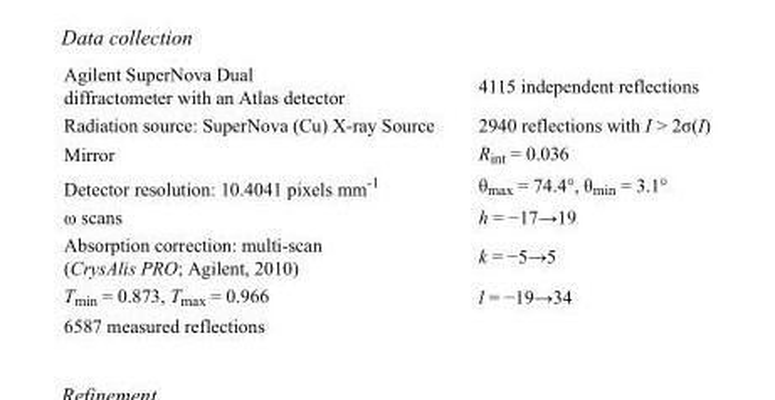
<table><tbody><tr><td>Agilent SuperNova Dual diffractometer with an Atlas detector</td><td>4115 independent reflections</td></tr><tr><td>Radiation source: SuperNova (Cu) X-ray Source</td><td>2940 reflections with I &gt; 2σ(I)</td></tr><tr><td>Mirror</td><td>R<sub>int</sub> = 0.036</td></tr><tr><td>Detector resolution: 10.4041 pixels mm<sup>-1</sup></td><td>θ<sub>max</sub> = 74.4°, θ<sub>min</sub> = 3.1°</td></tr><tr><td>ω scans</td><td>h = −17→19</td></tr><tr><td>Absorption correction: multi-scan (CrysAlis PRO; Agilent, 2010)</td><td>k = −5→5</td></tr><tr><td>T<sub>min</sub> = 0.873, T<sub>max</sub> = 0.966</td><td>l = −19→34</td></tr><tr><td>6587 measured reflections</td><td></td></tr></tbody></table>